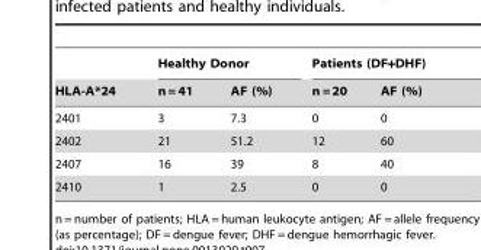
<table><thead><tr><td rowspan="2">HLA-A*24</td><td colspan="2">Healthy Donor</td><td colspan="2">Patients (DF+DHF)</td></tr><tr><td>n = 41</td><td>AF (%)</td><td>n = 20</td><td>AF (%)</td></tr></thead><tbody><tr><td>2401</td><td>3</td><td>7.3</td><td>0</td><td>0</td></tr><tr><td>2402</td><td>21</td><td>51.2</td><td>12</td><td>60</td></tr><tr><td>2407</td><td>16</td><td>39</td><td>8</td><td>40</td></tr><tr><td>2410</td><td>1</td><td>2.5</td><td>0</td><td>0</td></tr></tbody></table>